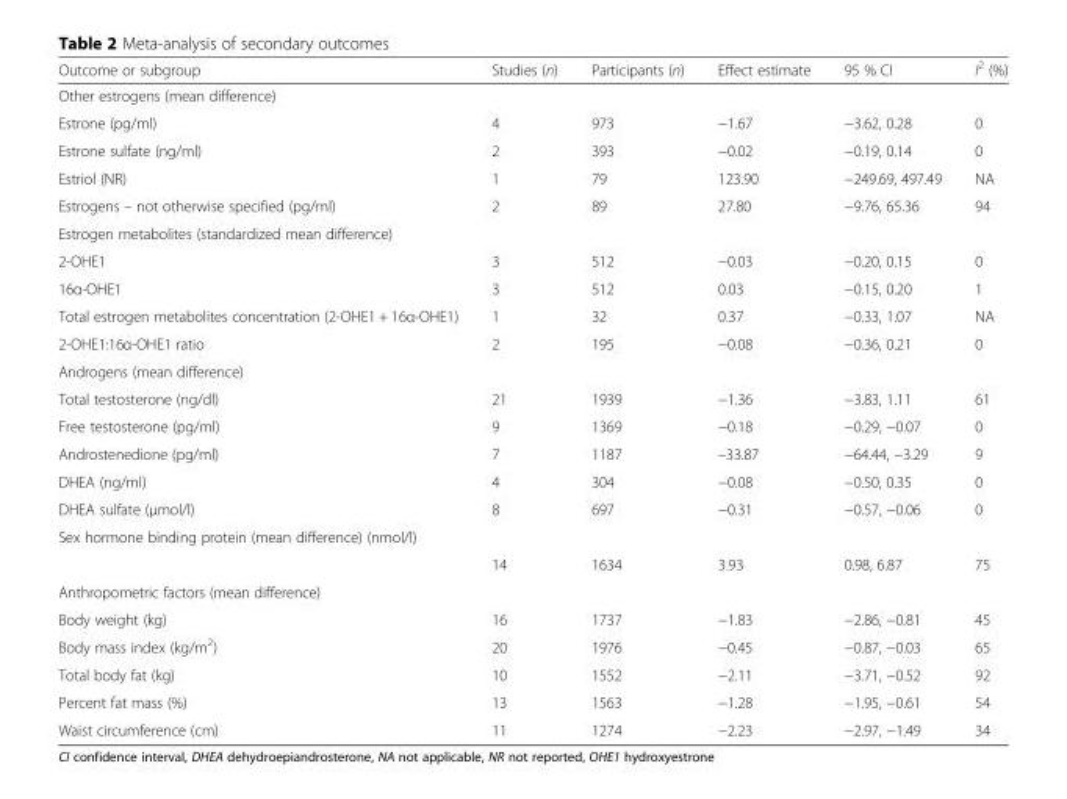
<table><thead><tr><td>Outcome or subgroup</td><td>Studies (n)</td><td>Participants (n)</td><td>Effect estimate</td><td>95 % CI</td><td>I<sup>2</sup> (%)</td></tr></thead><tbody><tr><td colspan="6">Other estrogens (mean difference)</td></tr><tr><td>Estrone (pg/ml)</td><td>4</td><td>973</td><td>−1.67</td><td>−3.62, 0.28</td><td>0</td></tr><tr><td>Estrone sulfate (ng/ml)</td><td>2</td><td>393</td><td>−0.02</td><td>−0.19, 0.14</td><td>0</td></tr><tr><td>Estriol (NR)</td><td>1</td><td>79</td><td>123.90</td><td>−249.69, 497.49</td><td>NA</td></tr><tr><td>Estrogens – not otherwise specified (pg/ml)</td><td>2</td><td>89</td><td>27.80</td><td>−9.76, 65.36</td><td>94</td></tr><tr><td colspan="6">Estrogen metabolites (standardized mean difference)</td></tr><tr><td>2-OHE1</td><td>3</td><td>512</td><td>−0.03</td><td>−0.20, 0.15</td><td>0</td></tr><tr><td>16α-OHE1</td><td>3</td><td>512</td><td>0.03</td><td>−0.15, 0.20</td><td>1</td></tr><tr><td>Total estrogen metabolites concentration (2-OHE1 + 16α-OHE1)</td><td>1</td><td>32</td><td>0.37</td><td>−0.33, 1.07</td><td>NA</td></tr><tr><td>2-OHE1:16α-OHE1 ratio</td><td>2</td><td>195</td><td>−0.08</td><td>−0.36, 0.21</td><td>0</td></tr><tr><td colspan="6">Androgens (mean difference)</td></tr><tr><td>Total testosterone (ng/dl)</td><td>21</td><td>1939</td><td>−1.36</td><td>−3.83, 1.11</td><td>61</td></tr><tr><td>Free testosterone (pg/ml)</td><td>9</td><td>1369</td><td>−0.18</td><td>−0.29, −0.07</td><td>0</td></tr><tr><td>Androstenedione (pg/ml)</td><td>7</td><td>1187</td><td>–33.87</td><td>−64.44, −3.29</td><td>9</td></tr><tr><td>DHEA (ng/ml)</td><td>4</td><td>304</td><td>−0.08</td><td>−0.50, 0.35</td><td>0</td></tr><tr><td>DHEA sulfate (μmol/l)</td><td>8</td><td>697</td><td>−0.31</td><td>−0.57, −0.06</td><td>0</td></tr><tr><td colspan="6">Sex hormone binding protein (mean difference) (nmol/l)</td></tr><tr><td></td><td>14</td><td>1634</td><td>3.93</td><td>0.98, 6.87</td><td>75</td></tr><tr><td colspan="6">Anthropometric factors (mean difference)</td></tr><tr><td>Body weight (kg)</td><td>16</td><td>1737</td><td>−1.83</td><td>−2.86, −0.81</td><td>45</td></tr><tr><td>Body mass index (kg/m<sup>2</sup>)</td><td>20</td><td>1976</td><td>−0.45</td><td>−0.87, −0.03</td><td>65</td></tr><tr><td>Total body fat (kg)</td><td>10</td><td>1552</td><td>−2.11</td><td>−3.71, −0.52</td><td>92</td></tr><tr><td>Percent fat mass (%)</td><td>13</td><td>1563</td><td>−1.28</td><td>−1.95, −0.61</td><td>54</td></tr><tr><td>Waist circumference (cm)</td><td>11</td><td>1274</td><td>−2.23</td><td>−2.97, −1.49</td><td>34</td></tr></tbody></table>